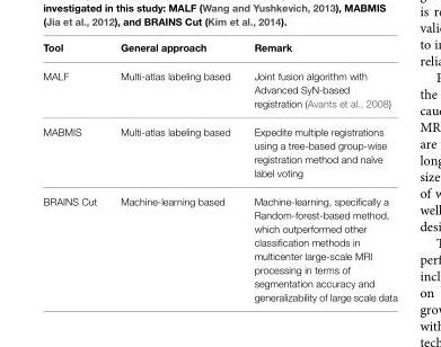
<table><thead><tr><td>Tool</td><td>General approach</td><td>Remark</td></tr></thead><tbody><tr><td>MALF</td><td>Multi-atlas labeling based</td><td>Joint fusion algorithm with Advanced SyN-based registration (Avants et al., 2008)</td></tr><tr><td>MABMIS</td><td>Multi-atlas labeling based</td><td>Expedite multiple registrations using a tree-based group-wise registration method and naïve label voting</td></tr><tr><td>BRAINS Cut</td><td>Machine-learning based</td><td>Machine-learning, specifically a Random-forest-based method, which outperformed other classification methods in multicenter large-scale MRI processing in terms of segmentation accuracy and generalizability of large scale data</td></tr></tbody></table>